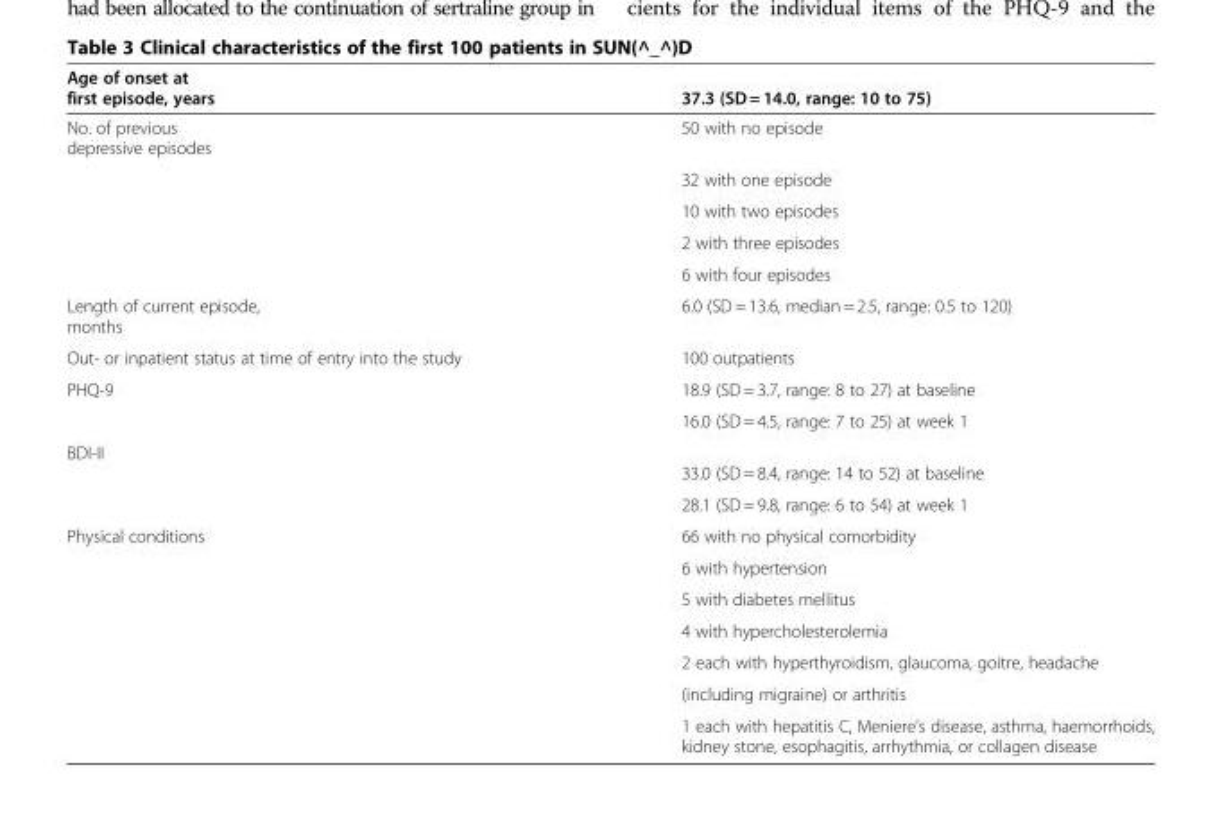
<table><thead><tr><td>Age of onset at first episode, years</td><td>37.3 (SD = 14.0, range: 10 to 75)</td></tr></thead><tbody><tr><td rowspan="5">No. of previous depressive episodes</td><td>50 with no episode</td></tr><tr><td>32 with one episode</td></tr><tr><td>10 with two episodes</td></tr><tr><td>2 with three episodes</td></tr><tr><td>6 with four episodes</td></tr><tr><td>Length of current episode, months</td><td>6.0 (SD = 13.6, median = 2.5, range: 0.5 to 120)</td></tr><tr><td>Out- or inpatient status at time of entry into the study</td><td>100 outpatients</td></tr><tr><td rowspan="2">PHQ-9</td><td>18.9 (SD = 3.7, range: 8 to 27) at baseline</td></tr><tr><td>16.0 (SD = 4.5, range: 7 to 25) at week 1</td></tr><tr><td rowspan="2">BDI-II</td><td>33.0 (SD = 8.4, range: 14 to 52) at baseline</td></tr><tr><td>28.1 (SD = 9.8, range: 6 to 54) at week 1</td></tr><tr><td rowspan="7">Physical conditions</td><td>66 with no physical comorbidity</td></tr><tr><td>6 with hypertension</td></tr><tr><td>5 with diabetes mellitus</td></tr><tr><td>4 with hypercholesterolemia</td></tr><tr><td>2 each with hyperthyroidism, glaucoma, goitre, headache</td></tr><tr><td>(including migraine) or arthritis</td></tr><tr><td>1 each with hepatitis C, Meniere’s disease, asthma, haemorrhoids, kidney stone, esophagitis, arrhythmia, or collagen disease</td></tr></tbody></table>